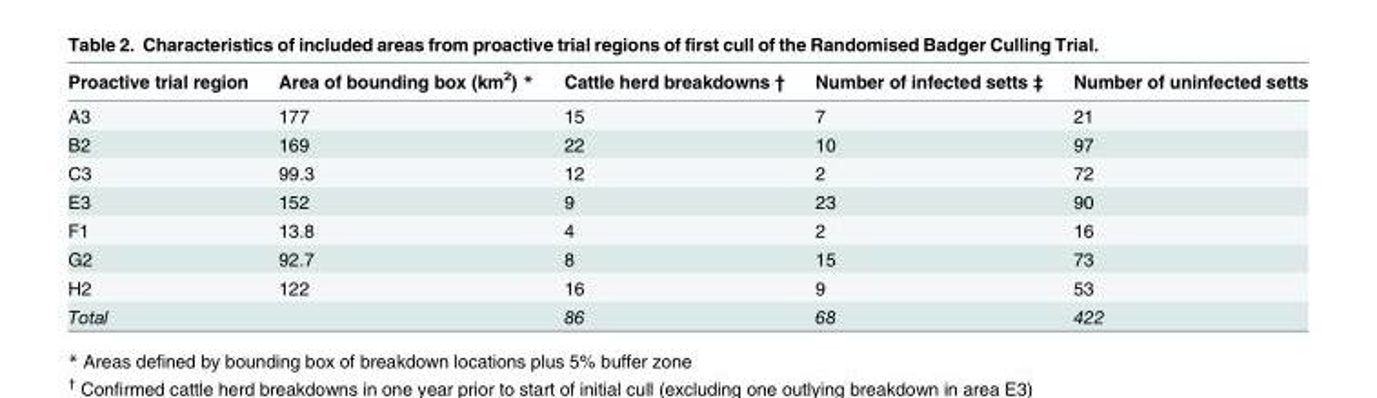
<table><thead><tr><td>Proactive trial region</td><td>Area of bounding box (km<sup>2</sup>) *</td><td>Cattle herd breakdowns †</td><td>Number of infected setts ‡</td><td>Number of uninfected setts</td></tr></thead><tbody><tr><td>A3</td><td>177</td><td>15</td><td>7</td><td>21</td></tr><tr><td>B2</td><td>169</td><td>22</td><td>10</td><td>97</td></tr><tr><td>C3</td><td>99.3</td><td>12</td><td>2</td><td>72</td></tr><tr><td>E3</td><td>152</td><td>9</td><td>23</td><td>90</td></tr><tr><td>F1</td><td>13.8</td><td>4</td><td>2</td><td>16</td></tr><tr><td>G2</td><td>92.7</td><td>8</td><td>15</td><td>73</td></tr><tr><td>H2</td><td>122</td><td>16</td><td>9</td><td>53</td></tr><tr><td>Total</td><td></td><td>86</td><td>68</td><td>422</td></tr></tbody></table>